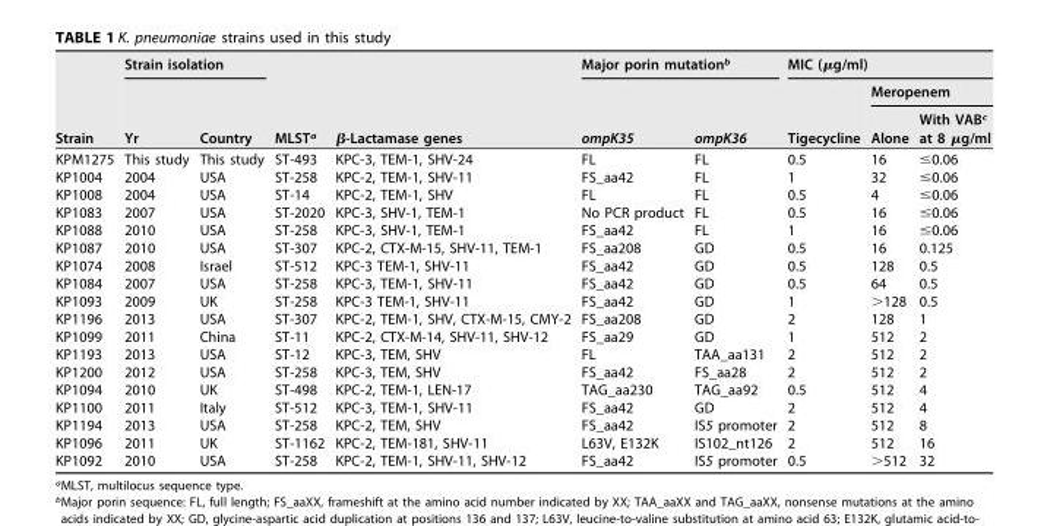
<table><thead><tr><td rowspan="3">Strain</td><td colspan="2">Strain isolation</td><td rowspan="3">MLST<sup>a</sup></td><td rowspan="3">β-Lactamase genes</td><td colspan="2">Major porin mutation<sup>b</sup></td><td colspan="3">MIC (μg/ml)</td></tr><tr><td rowspan="2">Yr</td><td rowspan="2">Country</td><td rowspan="2">ompK35</td><td rowspan="2">ompK36</td><td rowspan="2">Tigecycline</td><td colspan="2">Meropenem</td></tr><tr><td>Alone</td><td>With VAB<sup>c</sup> at 8 μg/ml</td></tr></thead><tbody><tr><td>KPM1275</td><td>This study</td><td>This study</td><td>ST-493</td><td>KPC-3, TEM-1, SHV-24</td><td>FL</td><td>FL</td><td>0.5</td><td>16</td><td>≤0.06</td></tr><tr><td>KP1004</td><td>2004</td><td>USA</td><td>ST-258</td><td>KPC-2, TEM-1, SHV-11</td><td>FS_aa42</td><td>FL</td><td>1</td><td>32</td><td>≤0.06</td></tr><tr><td>KP1008</td><td>2004</td><td>USA</td><td>ST-14</td><td>KPC-2, TEM-1, SHV</td><td>FL</td><td>FL</td><td>0.5</td><td>4</td><td>≤0.06</td></tr><tr><td>KP1083</td><td>2007</td><td>USA</td><td>ST-2020</td><td>KPC-3, SHV-1, TEM-1</td><td>No PCR product</td><td>FL</td><td>0.5</td><td>16</td><td>≤0.06</td></tr><tr><td>KP1088</td><td>2010</td><td>USA</td><td>ST-258</td><td>KPC-3, SHV-1, TEM-1</td><td>FS_aa42</td><td>FL</td><td>1</td><td>16</td><td>≤0.06</td></tr><tr><td>KP1087</td><td>2010</td><td>USA</td><td>ST-307</td><td>KPC-2, CTX-M-15, SHV-11, TEM-1</td><td>FS_aa208</td><td>GD</td><td>0.5</td><td>16</td><td>0.125</td></tr><tr><td>KP1074</td><td>2008</td><td>Israel</td><td>ST-512</td><td>KPC-3 TEM-1, SHV-11</td><td>FS_aa42</td><td>GD</td><td>0.5</td><td>128</td><td>0.5</td></tr><tr><td>KP1084</td><td>2007</td><td>USA</td><td>ST-258</td><td>KPC-3, TEM-1, SHV-11</td><td>FS_aa42</td><td>GD</td><td>0.5</td><td>64</td><td>0.5</td></tr><tr><td>KP1093</td><td>2009</td><td>UK</td><td>ST-258</td><td>KPC-3 TEM-1, SHV-11</td><td>FS_aa42</td><td>GD</td><td>1</td><td>&gt;128</td><td>0.5</td></tr><tr><td>KP1196</td><td>2013</td><td>USA</td><td>ST-307</td><td>KPC-2, TEM-1, SHV, CTX-M-15, CMY-2</td><td>FS_aa208</td><td>GD</td><td>2</td><td>128</td><td>1</td></tr><tr><td>KP1099</td><td>2011</td><td>China</td><td>ST-11</td><td>KPC-2, CTX-M-14, SHV-11, SHV-12</td><td>FS_aa29</td><td>GD</td><td>1</td><td>512</td><td>2</td></tr><tr><td>KP1193</td><td>2013</td><td>USA</td><td>ST-12</td><td>KPC-3, TEM, SHV</td><td>FL</td><td>TAA_aa131</td><td>2</td><td>512</td><td>2</td></tr><tr><td>KP1200</td><td>2012</td><td>USA</td><td>ST-258</td><td>KPC-3, TEM, SHV</td><td>FS_aa42</td><td>FS_aa28</td><td>2</td><td>512</td><td>2</td></tr><tr><td>KP1094</td><td>2010</td><td>UK</td><td>ST-498</td><td>KPC-2, TEM-1, LEN-17</td><td>TAG_aa230</td><td>TAG_aa92</td><td>0.5</td><td>512</td><td>4</td></tr><tr><td>KP1100</td><td>2011</td><td>Italy</td><td>ST-512</td><td>KPC-3, TEM-1, SHV-11</td><td>FS_aa42</td><td>GD</td><td>2</td><td>512</td><td>4</td></tr><tr><td>KP1194</td><td>2013</td><td>USA</td><td>ST-258</td><td>KPC-2, TEM, SHV</td><td>FS_aa42</td><td>IS5 promoter</td><td>2</td><td>512</td><td>8</td></tr><tr><td>KP1096</td><td>2011</td><td>UK</td><td>ST-1162</td><td>KPC-2, TEM-181, SHV-11</td><td>L63V, E132K</td><td>IS102_nt126</td><td>2</td><td>512</td><td>16</td></tr><tr><td>KP1092</td><td>2010</td><td>USA</td><td>ST-258</td><td>KPC-2, TEM-1, SHV-11, SHV-12</td><td>FS_aa42</td><td>IS5 promoter</td><td>0.5</td><td>&gt;512</td><td>32</td></tr></tbody></table>